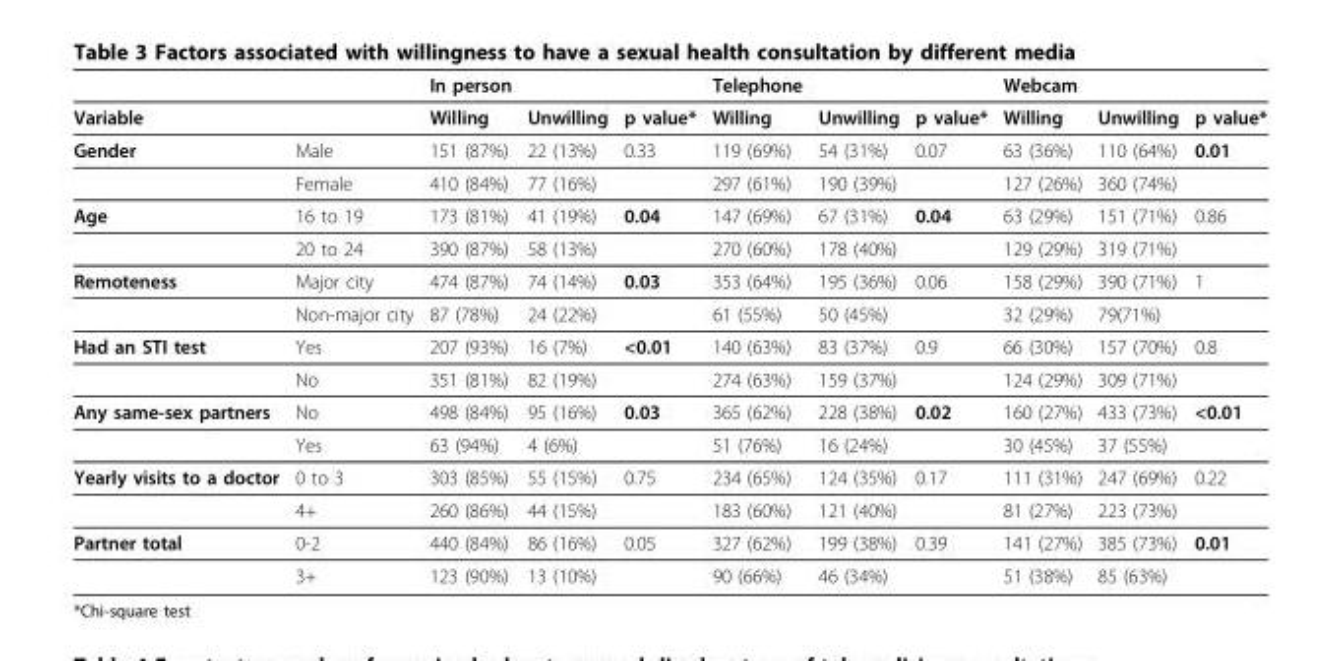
<table><thead><tr><td></td><td></td><td>In person</td><td></td><td></td><td>Telephone</td><td></td><td></td><td>Webcam</td><td></td><td></td></tr></thead><tbody><tr><td>Variable</td><td></td><td>Willing</td><td>Unwilling</td><td>p value*</td><td>Willing</td><td>Unwilling</td><td>p value*</td><td>Willing</td><td>Unwilling</td><td>p value*</td></tr><tr><td rowspan="2">Gender</td><td>Male</td><td>151 (87%)</td><td>22 (13%)</td><td>0.33</td><td>119 (69%)</td><td>54 (31%)</td><td>0.07</td><td>63 (36%)</td><td>110 (64%)</td><td>0.01</td></tr><tr><td>Female</td><td>410 (84%)</td><td>77 (16%)</td><td></td><td>297 (61%)</td><td>190 (39%)</td><td></td><td>127 (26%)</td><td>360 (74%)</td><td></td></tr><tr><td rowspan="2">Age</td><td>16 to 19</td><td>173 (81%)</td><td>41 (19%)</td><td>0.04</td><td>147 (69%)</td><td>67 (31%)</td><td>0.04</td><td>63 (29%)</td><td>151 (71%)</td><td>0.86</td></tr><tr><td>20 to 24</td><td>390 (87%)</td><td>58 (13%)</td><td></td><td>270 (60%)</td><td>178 (40%)</td><td></td><td>129 (29%)</td><td>319 (71%)</td><td></td></tr><tr><td rowspan="2">Remoteness</td><td>Major city</td><td>474 (87%)</td><td>74 (14%)</td><td>0.03</td><td>353 (64%)</td><td>195 (36%)</td><td>0.06</td><td>158 (29%)</td><td>390 (71%)</td><td>1</td></tr><tr><td>Non-major city</td><td>87 (78%)</td><td>24 (22%)</td><td></td><td>61 (55%)</td><td>50 (45%)</td><td></td><td>32 (29%)</td><td>79(71%)</td><td></td></tr><tr><td rowspan="2">Had an STI test</td><td>Yes</td><td>207 (93%)</td><td>16 (7%)</td><td>&lt;0.01</td><td>140 (63%)</td><td>83 (37%)</td><td>0.9</td><td>66 (30%)</td><td>157 (70%)</td><td>0.8</td></tr><tr><td>No</td><td>351 (81%)</td><td>82 (19%)</td><td></td><td>274 (63%)</td><td>159 (37%)</td><td></td><td>124 (29%)</td><td>309 (71%)</td><td></td></tr><tr><td rowspan="2">Any same-sex partners</td><td>No</td><td>498 (84%)</td><td>95 (16%)</td><td>0.03</td><td>365 (62%)</td><td>228 (38%)</td><td>0.02</td><td>160 (27%)</td><td>433 (73%)</td><td>&lt;0.01</td></tr><tr><td>Yes</td><td>63 (94%)</td><td>4 (6%)</td><td></td><td>51 (76%)</td><td>16 (24%)</td><td></td><td>30 (45%)</td><td>37 (55%)</td><td></td></tr><tr><td rowspan="2">Yearly visits to a doctor</td><td>0 to 3</td><td>303 (85%)</td><td>55 (15%)</td><td>0.75</td><td>234 (65%)</td><td>124 (35%)</td><td>0.17</td><td>111 (31%)</td><td>247 (69%)</td><td>0.22</td></tr><tr><td>4+</td><td>260 (86%)</td><td>44 (15%)</td><td></td><td>183 (60%)</td><td>121 (40%)</td><td></td><td>81 (27%)</td><td>223 (73%)</td><td></td></tr><tr><td rowspan="2">Partner total</td><td>0-2</td><td>440 (84%)</td><td>86 (16%)</td><td>0.05</td><td>327 (62%)</td><td>199 (38%)</td><td>0.39</td><td>141 (27%)</td><td>385 (73%)</td><td>0.01</td></tr><tr><td>3+</td><td>123 (90%)</td><td>13 (10%)</td><td></td><td>90 (66%)</td><td>46 (34%)</td><td></td><td>51 (38%)</td><td>85 (63%)</td><td></td></tr></tbody></table>